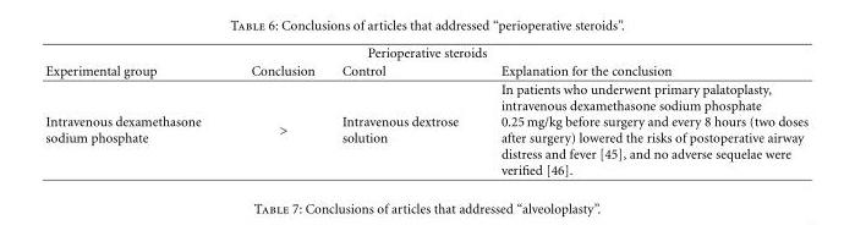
<table><thead><tr><td colspan="4">Perioperative steroids</td></tr><tr><td>Experimental group</td><td>Conclusion</td><td>Control</td><td>Explanation for the conclusion</td></tr></thead><tbody><tr><td>Intravenous dexamethasone sodium phosphate</td><td>&gt;</td><td>Intravenous dextrose solution</td><td>In patients who underwent primary palatoplasty, intravenous dexamethasone sodium phosphate 0.25 mg/kg before surgery and every 8 hours (two doses after surgery) lowered the risks of postoperative airway distress and fever [45], and no adverse sequelae were verified [46].</td></tr></tbody></table>